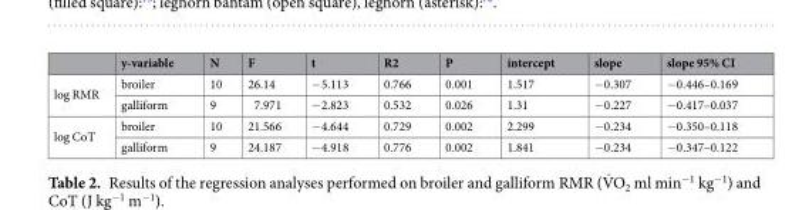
<table><thead><tr><td></td><td>y-variable</td><td>N</td><td>F</td><td>t</td><td>R2</td><td>P</td><td>intercept</td><td>slope</td><td>slope 95% CI</td></tr></thead><tbody><tr><td rowspan="2">log RMR</td><td>broiler</td><td>10</td><td>26.14</td><td>−5.113</td><td>0.766</td><td>0.001</td><td>1.517</td><td>−0.307</td><td>−0.446–0.169</td></tr><tr><td>galliform</td><td>9</td><td>7.971</td><td>−2.823</td><td>0.532</td><td>0.026</td><td>1.31</td><td>−0.227</td><td>−0.417–0.037</td></tr><tr><td rowspan="2">log CoT</td><td>broiler</td><td>10</td><td>21.566</td><td>−4.644</td><td>0.729</td><td>0.002</td><td>2.299</td><td>−0.234</td><td>−0.350–0.118</td></tr><tr><td>galliform</td><td>9</td><td>24.187</td><td>−4.918</td><td>0.776</td><td>0.002</td><td>1.841</td><td>−0.234</td><td>−0.347–0.122</td></tr></tbody></table>